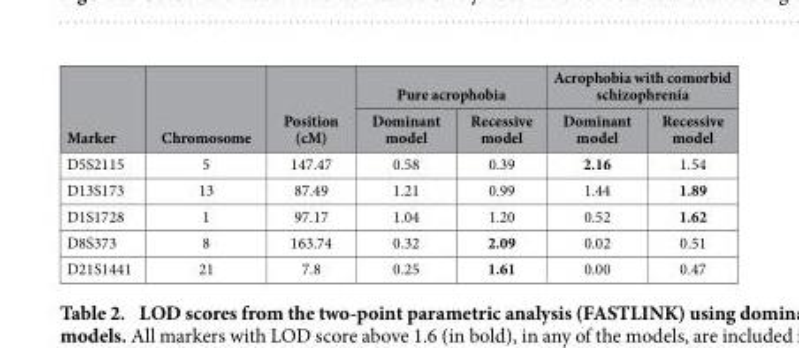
<table><thead><tr><td rowspan="2">Marker</td><td rowspan="2">Chromosome</td><td rowspan="2">Position (cM)</td><td colspan="2">Pure acrophobia</td><td colspan="2">Acrophobia with comorbid schizophrenia</td></tr><tr><td>Dominant model</td><td>Recessive model</td><td>Dominant model</td><td>Recessive model</td></tr></thead><tbody><tr><td>D5S2115</td><td>5</td><td>147.47</td><td>0.58</td><td>0.39</td><td>2.16</td><td>1.54</td></tr><tr><td>D13S173</td><td>13</td><td>87.49</td><td>1.21</td><td>0.99</td><td>1.44</td><td>1.89</td></tr><tr><td>D1S1728</td><td>1</td><td>97.17</td><td>1.04</td><td>1.20</td><td>0.52</td><td>1.62</td></tr><tr><td>D8S373</td><td>8</td><td>163.74</td><td>0.32</td><td>2.09</td><td>0.02</td><td>0.51</td></tr><tr><td>D21S1441</td><td>21</td><td>7.8</td><td>0.25</td><td>1.61</td><td>0.00</td><td>0.47</td></tr></tbody></table>